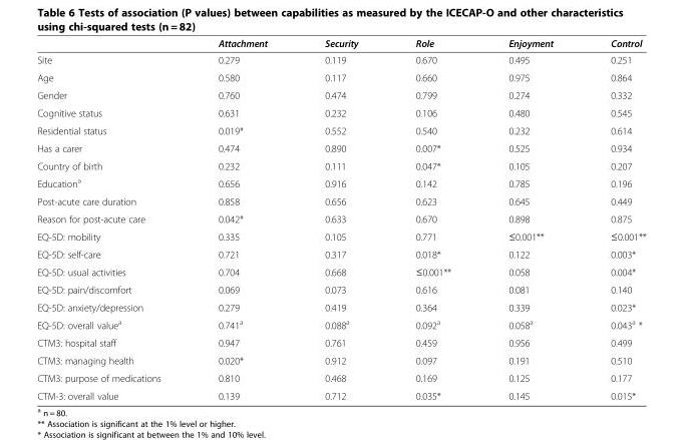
<table><thead><tr><td></td><td>Attachment</td><td>Security</td><td>Role</td><td>Enjoyment</td><td>Control</td></tr></thead><tbody><tr><td>Site</td><td>0.279</td><td>0.119</td><td>0.670</td><td>0.495</td><td>0.251</td></tr><tr><td>Age</td><td>0.580</td><td>0.117</td><td>0.660</td><td>0.975</td><td>0.864</td></tr><tr><td>Gender</td><td>0.760</td><td>0.474</td><td>0.799</td><td>0.274</td><td>0.332</td></tr><tr><td>Cognitive status</td><td>0.631</td><td>0.232</td><td>0.106</td><td>0.480</td><td>0.545</td></tr><tr><td>Residential status</td><td>0.019*</td><td>0.552</td><td>0.540</td><td>0.232</td><td>0.614</td></tr><tr><td>Has a carer</td><td>0.474</td><td>0.890</td><td>0.007*</td><td>0.525</td><td>0.934</td></tr><tr><td>Country of birth</td><td>0.232</td><td>0.111</td><td>0.047*</td><td>0.105</td><td>0.207</td></tr><tr><td>Education<sup>a</sup></td><td>0.656</td><td>0.916</td><td>0.142</td><td>0.785</td><td>0.196</td></tr><tr><td>Post-acute care duration</td><td>0.858</td><td>0.656</td><td>0.623</td><td>0.645</td><td>0.449</td></tr><tr><td>Reason for post-acute care</td><td>0.042*</td><td>0.633</td><td>0.670</td><td>0.898</td><td>0.875</td></tr><tr><td>EQ-5D: mobility</td><td>0.335</td><td>0.105</td><td>0.771</td><td>≤0.001**</td><td>≤0.001**</td></tr><tr><td>EQ-5D: self-care</td><td>0.721</td><td>0.317</td><td>0.018*</td><td>0.122</td><td>0.003*</td></tr><tr><td>EQ-5D: usual activities</td><td>0.704</td><td>0.668</td><td>≤0.001**</td><td>0.058</td><td>0.004*</td></tr><tr><td>EQ-5D: pain/discomfort</td><td>0.069</td><td>0.073</td><td>0.616</td><td>0.081</td><td>0.140</td></tr><tr><td>EQ-5D: anxiety/depression</td><td>0.279</td><td>0.419</td><td>0.364</td><td>0.339</td><td>0.023*</td></tr><tr><td>EQ-5D: overall value<sup>a</sup></td><td>0.741<sup>a</sup></td><td>0.088<sup>a</sup></td><td>0.092<sup>a</sup></td><td>0.058<sup>a</sup></td><td>0.043<sup>a</sup> *</td></tr><tr><td>CTM3: hospital staff</td><td>0.947</td><td>0.761</td><td>0.459</td><td>0.956</td><td>0.499</td></tr><tr><td>CTM3: managing health</td><td>0.020*</td><td>0.912</td><td>0.097</td><td>0.191</td><td>0.510</td></tr><tr><td>CTM3: purpose of medications</td><td>0.810</td><td>0.468</td><td>0.169</td><td>0.125</td><td>0.177</td></tr><tr><td>CTM-3: overall value</td><td>0.139</td><td>0.712</td><td>0.035*</td><td>0.145</td><td>0.015*</td></tr></tbody></table>